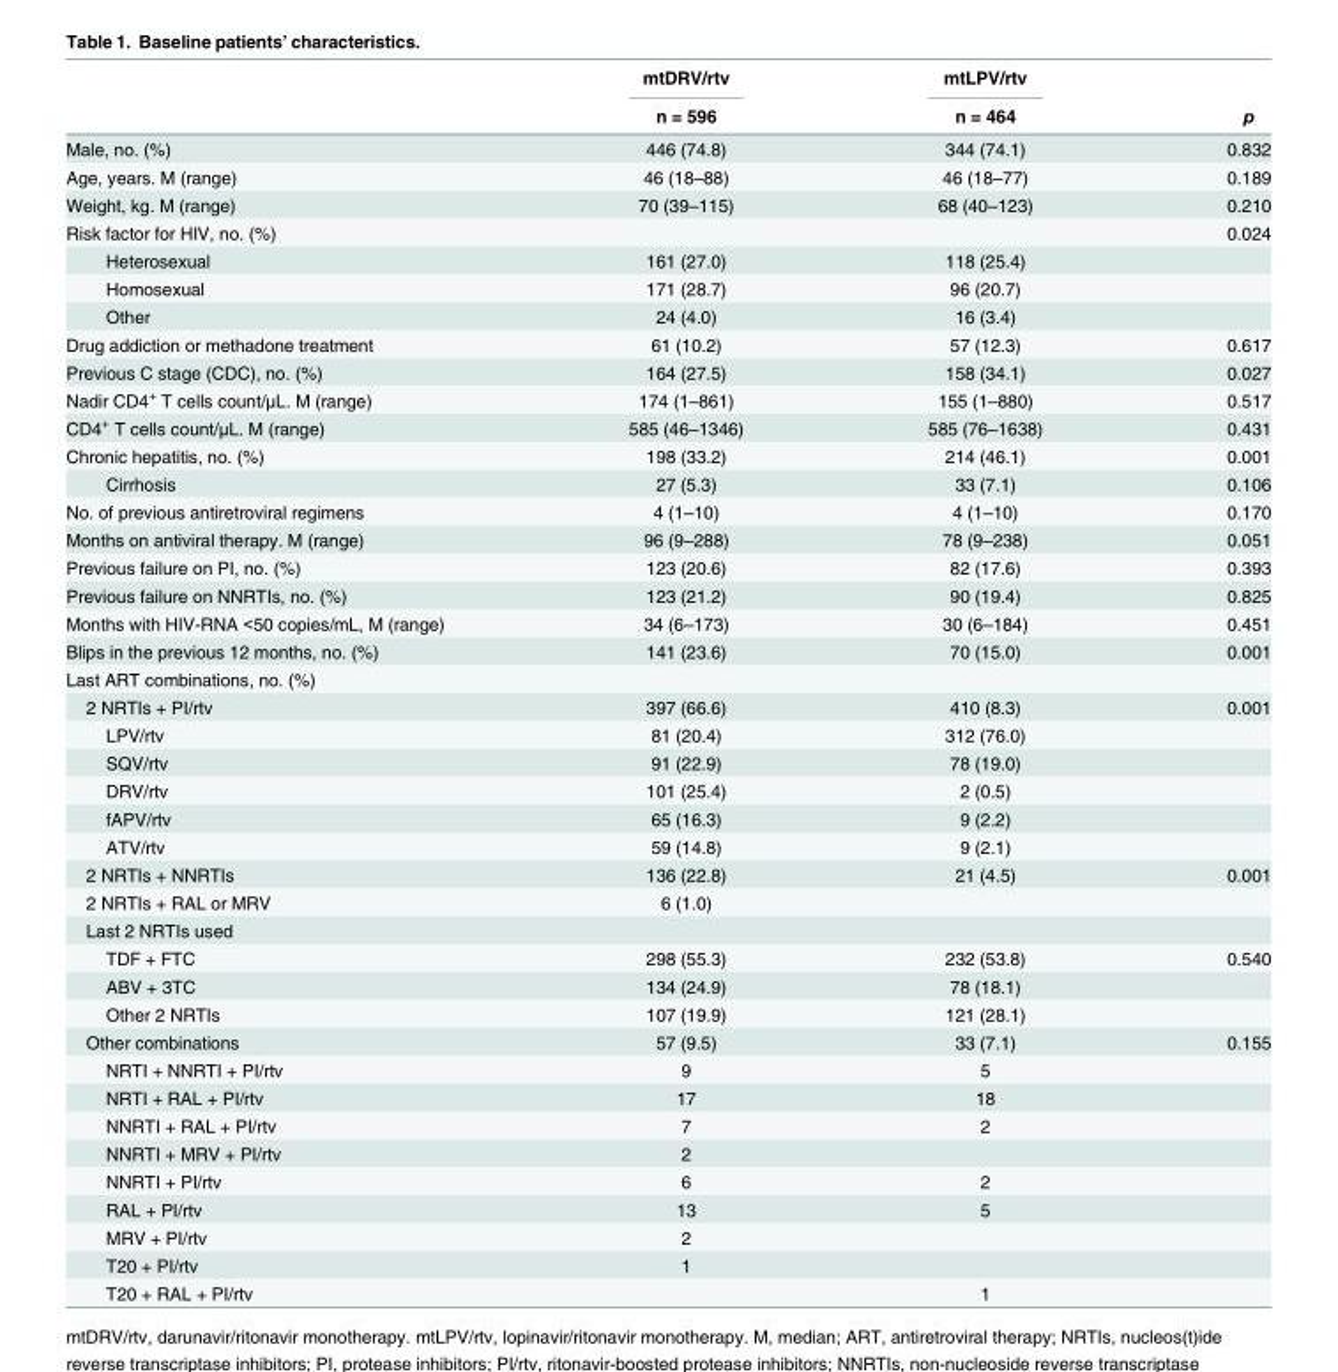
<table><thead><tr><td rowspan="2"></td><td rowspan="2">mtDRV/rtv n = 596</td><td rowspan="2">mtLPV/rtv n = 464</td><td rowspan="2">p</td></tr><tr></tr></thead><tbody><tr><td>Male, no. (%)</td><td>446 (74.8)</td><td>344 (74.1)</td><td>0.832</td></tr><tr><td>Age, years. M (range)</td><td>46 (18–88)</td><td>46 (18–77)</td><td>0.189</td></tr><tr><td>Weight, kg. M (range)</td><td>70 (39–115)</td><td>68 (40–123)</td><td>0.210</td></tr><tr><td>Risk factor for HIV, no. (%)</td><td></td><td></td><td>0.024</td></tr><tr><td>Heterosexual</td><td>161 (27.0)</td><td>118 (25.4)</td><td></td></tr><tr><td>Homosexual</td><td>171 (28.7)</td><td>96 (20.7)</td><td></td></tr><tr><td>Other</td><td>24 (4.0)</td><td>16 (3.4)</td><td></td></tr><tr><td>Drug addiction or methadone treatment</td><td>61 (10.2)</td><td>57 (12.3)</td><td>0.617</td></tr><tr><td>Previous C stage (CDC), no. (%)</td><td>164 (27.5)</td><td>158 (34.1)</td><td>0.027</td></tr><tr><td>Nadir CD4<sup>+</sup> T cells count/μL. M (range)</td><td>174 (1–861)</td><td>155 (1–880)</td><td>0.517</td></tr><tr><td>CD4<sup>+</sup> T cells count/μL. M (range)</td><td>585 (46–1346)</td><td>585 (76–1638)</td><td>0.431</td></tr><tr><td>Chronic hepatitis, no. (%)</td><td>198 (33.2)</td><td>214 (46.1)</td><td>0.001</td></tr><tr><td>Cirrhosis</td><td>27 (5.3)</td><td>33 (7.1)</td><td>0.106</td></tr><tr><td>No. of previous antiretroviral regimens</td><td>4 (1–10)</td><td>4 (1–10)</td><td>0.170</td></tr><tr><td>Months on antiviral therapy. M (range)</td><td>96 (9–288)</td><td>78 (9–238)</td><td>0.051</td></tr><tr><td>Previous failure on PI, no. (%)</td><td>123 (20.6)</td><td>82 (17.6)</td><td>0.393</td></tr><tr><td>Previous failure on NNRTIs, no. (%)</td><td>123 (21.2)</td><td>90 (19.4)</td><td>0.825</td></tr><tr><td>Months with HIV-RNA &lt;50 copies/mL, M (range)</td><td>34 (6–173)</td><td>30 (6–184)</td><td>0.451</td></tr><tr><td>Blips in the previous 12 months, no. (%)</td><td>141 (23.6)</td><td>70 (15.0)</td><td>0.001</td></tr><tr><td colspan="4">Last ART combinations, no. (%)</td></tr><tr><td>2 NRTIs + PI/rtv</td><td>397 (66.6)</td><td>410 (8.3)</td><td>0.001</td></tr><tr><td>LPV/rtv</td><td>81 (20.4)</td><td>312 (76.0)</td><td></td></tr><tr><td>SQV/rtv</td><td>91 (22.9)</td><td>78 (19.0)</td><td></td></tr><tr><td>DRV/rtv</td><td>101 (25.4)</td><td>2 (0.5)</td><td></td></tr><tr><td>fAPV/rtv</td><td>65 (16.3)</td><td>9 (2.2)</td><td></td></tr><tr><td>ATV/rtv</td><td>59 (14.8)</td><td>9 (2.1)</td><td></td></tr><tr><td>2 NRTIs + NNRTIs</td><td>136 (22.8)</td><td>21 (4.5)</td><td>0.001</td></tr><tr><td>2 NRTIs + RAL or MRV</td><td>6 (1.0)</td><td>‒</td><td></td></tr><tr><td colspan="4">Last 2 NRTIs used</td></tr><tr><td>TDF + FTC</td><td>298 (55.3)</td><td>232 (53.8)</td><td>0.540</td></tr><tr><td>ABV + 3TC</td><td>134 (24.9)</td><td>78 (18.1)</td><td></td></tr><tr><td>Other 2 NRTIs</td><td>107 (19.9)</td><td>121 (28.1)</td><td></td></tr><tr><td>Other combinations</td><td>57 (9.5)</td><td>33 (7.1)</td><td>0.155</td></tr><tr><td>NRTI + NNRTI + PI/rtv</td><td>9</td><td>5</td><td></td></tr><tr><td>NRTI + RAL + PI/rtv</td><td>17</td><td>18</td><td></td></tr><tr><td>NNRTI + RAL + PI/rtv</td><td>7</td><td>2</td><td></td></tr><tr><td>NNRTI + MRV + PI/rtv</td><td>2</td><td>‒</td><td></td></tr><tr><td>NNRTI + PI/rtv</td><td>6</td><td>2</td><td></td></tr><tr><td>RAL + PI/rtv</td><td>13</td><td>5</td><td></td></tr><tr><td>MRV + PI/rtv</td><td>2</td><td>‒</td><td></td></tr><tr><td>T20 + PI/rtv</td><td>1</td><td>‒</td><td></td></tr><tr><td>T20 + RAL + PI/rtv</td><td>‒</td><td>1</td><td></td></tr></tbody></table>